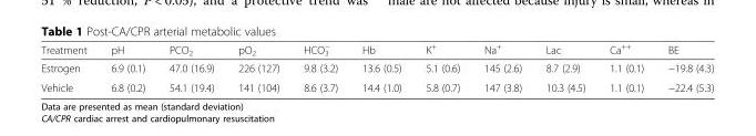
<table><thead><tr><td>Treatment</td><td>pH</td><td>PCO<sub>2</sub></td><td>pO<sub>2</sub></td><td>HCO<sub>3</sub> <sup>−</sup></td><td>Hb</td><td>K<sup>+</sup></td><td>Na<sup>+</sup></td><td>Lac</td><td>Ca<sup>++</sup></td><td>BE</td></tr></thead><tbody><tr><td>Estrogen</td><td>6.9 (0.1)</td><td>47.0 (16.9)</td><td>226 (127)</td><td>9.8 (3.2)</td><td>13.6 (0.5)</td><td>5.1 (0.6)</td><td>145 (2.6)</td><td>8.7 (2.9)</td><td>1.1 (0.1)</td><td>−19.8 (4.3)</td></tr><tr><td>Vehicle</td><td>6.8 (0.2)</td><td>54.1 (19.4)</td><td>141 (104)</td><td>8.6 (3.7)</td><td>14.4 (1.0)</td><td>5.8 (0.7)</td><td>147 (3.8)</td><td>10.3 (4.5)</td><td>1.1 (0.1)</td><td>−22.4 (5.3)</td></tr></tbody></table>